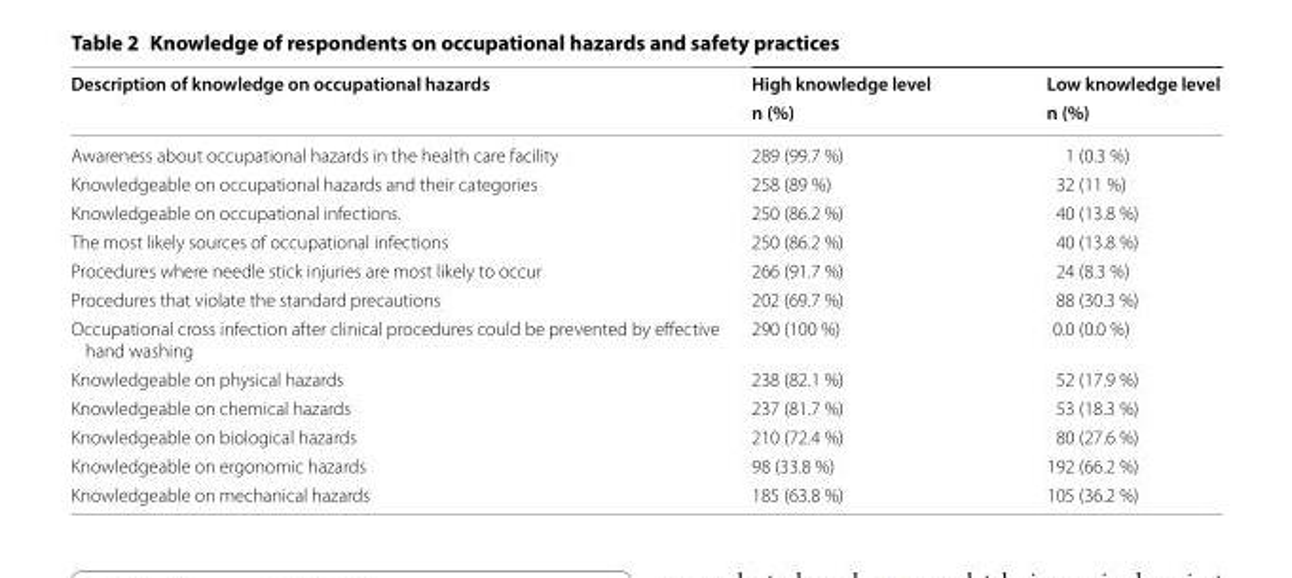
<table><thead><tr><td rowspan="2">Description of knowledge on occupational hazards</td><td rowspan="2">High knowledge level n (%)</td><td rowspan="2">Low knowledge level n (%)</td></tr><tr></tr></thead><tbody><tr><td>Awareness about occupational hazards in the health care facility</td><td>289 (99.7 %)</td><td>1 (0.3 %)</td></tr><tr><td>Knowledgeable on occupational hazards and their categories</td><td>258 (89 %)</td><td>32 (11 %)</td></tr><tr><td>Knowledgeable on occupational infections.</td><td>250 (86.2 %)</td><td>40 (13.8 %)</td></tr><tr><td>The most likely sources of occupational infections</td><td>250 (86.2 %)</td><td>40 (13.8 %)</td></tr><tr><td>Procedures where needle stick injuries are most likely to occur</td><td>266 (91.7 %)</td><td>24 (8.3 %)</td></tr><tr><td>Procedures that violate the standard precautions</td><td>202 (69.7 %)</td><td>88 (30.3 %)</td></tr><tr><td>Occupational cross infection after clinical procedures could be prevented by effective hand washing</td><td>290 (100 %)</td><td>0.0 (0.0 %)</td></tr><tr><td>Knowledgeable on physical hazards</td><td>238 (82.1 %)</td><td>52 (17.9 %)</td></tr><tr><td>Knowledgeable on chemical hazards</td><td>237 (81.7 %)</td><td>53 (18.3 %)</td></tr><tr><td>Knowledgeable on biological hazards</td><td>210 (72.4 %)</td><td>80 (27.6 %)</td></tr><tr><td>Knowledgeable on ergonomic hazards</td><td>98 (33.8 %)</td><td>192 (66.2 %)</td></tr><tr><td>Knowledgeable on mechanical hazards</td><td>185 (63.8 %)</td><td>105 (36.2 %)</td></tr></tbody></table>